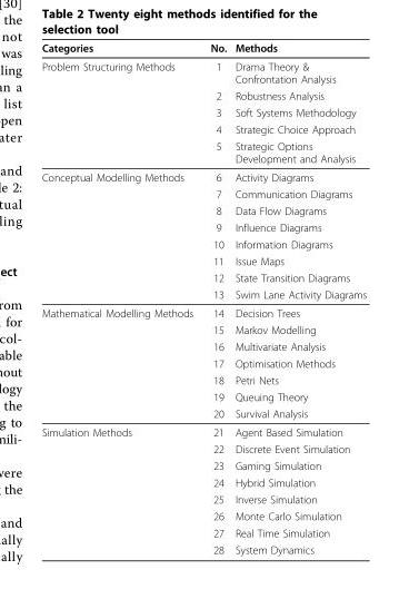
<table><thead><tr><td>Categories</td><td>No.</td><td>Methods</td></tr></thead><tbody><tr><td rowspan="5">Problem Structuring Methods</td><td>1</td><td>Drama Theory &amp; Confrontation Analysis</td></tr><tr><td>2</td><td>Robustness Analysis</td></tr><tr><td>3</td><td>Soft Systems Methodology</td></tr><tr><td>4</td><td>Strategic Choice Approach</td></tr><tr><td>5</td><td>Strategic Options Development and Analysis</td></tr><tr><td rowspan="8">Conceptual Modelling Methods</td><td>6</td><td>Activity Diagrams</td></tr><tr><td>7</td><td>Communication Diagrams</td></tr><tr><td>8</td><td>Data Flow Diagrams</td></tr><tr><td>9</td><td>Influence Diagrams</td></tr><tr><td>10</td><td>Information Diagrams</td></tr><tr><td>11</td><td>Issue Maps</td></tr><tr><td>12</td><td>State Transition Diagrams</td></tr><tr><td>13</td><td>Swim Lane Activity Diagrams</td></tr><tr><td rowspan="7">Mathematical Modelling Methods</td><td>14</td><td>Decision Trees</td></tr><tr><td>15</td><td>Markov Modelling</td></tr><tr><td>16</td><td>Multivariate Analysis</td></tr><tr><td>17</td><td>Optimisation Methods</td></tr><tr><td>18</td><td>Petri Nets</td></tr><tr><td>19</td><td>Queuing Theory</td></tr><tr><td>20</td><td>Survival Analysis</td></tr><tr><td rowspan="8">Simulation Methods</td><td>21</td><td>Agent Based Simulation</td></tr><tr><td>22</td><td>Discrete Event Simulation</td></tr><tr><td>23</td><td>Gaming Simulation</td></tr><tr><td>24</td><td>Hybrid Simulation</td></tr><tr><td>25</td><td>Inverse Simulation</td></tr><tr><td>26</td><td>Monte Carlo Simulation</td></tr><tr><td>27</td><td>Real Time Simulation</td></tr><tr><td>28</td><td>System Dynamics</td></tr></tbody></table>